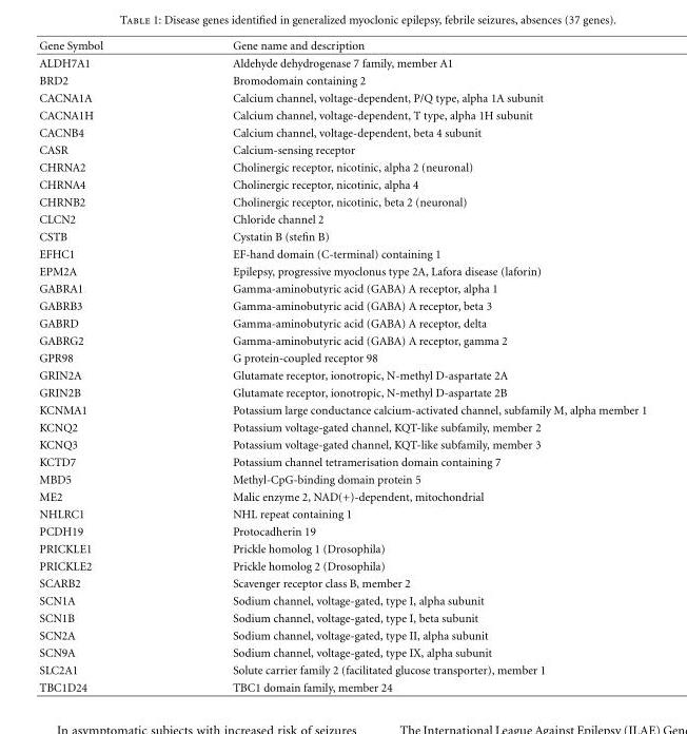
<table><thead><tr><td>Gene Symbol</td><td>Gene name and description</td></tr></thead><tbody><tr><td>ALDH7A1</td><td>Aldehyde dehydrogenase 7 family, member A1</td></tr><tr><td>BRD2</td><td>Bromodomain containing 2</td></tr><tr><td>CACNA1A</td><td>Calcium channel, voltage-dependent, P/Q type, alpha 1A subunit</td></tr><tr><td>CACNA1H</td><td>Calcium channel, voltage-dependent, T type, alpha 1H subunit</td></tr><tr><td>CACNB4</td><td>Calcium channel, voltage-dependent, beta 4 subunit</td></tr><tr><td>CASR</td><td>Calcium-sensing receptor</td></tr><tr><td>CHRNA2</td><td>Cholinergic receptor, nicotinic, alpha 2 (neuronal)</td></tr><tr><td>CHRNA4</td><td>Cholinergic receptor, nicotinic, alpha 4</td></tr><tr><td>CHRNB2</td><td>Cholinergic receptor, nicotinic, beta 2 (neuronal)</td></tr><tr><td>CLCN2</td><td>Chloride channel 2</td></tr><tr><td>CSTB</td><td>Cystatin B (stefin B)</td></tr><tr><td>EFHC1</td><td>EF-hand domain (C-terminal) containing 1</td></tr><tr><td>EPM2A</td><td>Epilepsy, progressive myoclonus type 2A, Lafora disease (laforin)</td></tr><tr><td>GABRA1</td><td>Gamma-aminobutyric acid (GABA) A receptor, alpha 1</td></tr><tr><td>GABRB3</td><td>Gamma-aminobutyric acid (GABA) A receptor, beta 3</td></tr><tr><td>GABRD</td><td>Gamma-aminobutyric acid (GABA) A receptor, delta</td></tr><tr><td>GABRG2</td><td>Gamma-aminobutyric acid (GABA) A receptor, gamma 2</td></tr><tr><td>GPR98</td><td>G protein-coupled receptor 98</td></tr><tr><td>GRIN2A</td><td>Glutamate receptor, ionotropic, N-methyl D-aspartate 2A</td></tr><tr><td>GRIN2B</td><td>Glutamate receptor, ionotropic, N-methyl D-aspartate 2B</td></tr><tr><td>KCNMA1</td><td>Potassium large conductance calcium-activated channel, subfamily M, alpha member 1</td></tr><tr><td>KCNQ2</td><td>Potassium voltage-gated channel, KQT-like subfamily, member 2</td></tr><tr><td>KCNQ3</td><td>Potassium voltage-gated channel, KQT-like subfamily, member 3</td></tr><tr><td>KCTD7</td><td>Potassium channel tetramerisation domain containing 7</td></tr><tr><td>MBD5</td><td>Methyl-CpG-binding domain protein 5</td></tr><tr><td>ME2</td><td>Malic enzyme 2, NAD(+)-dependent, mitochondrial</td></tr><tr><td>NHLRC1</td><td>NHL repeat containing 1</td></tr><tr><td>PCDH19</td><td>Protocadherin 19</td></tr><tr><td>PRICKLE1</td><td>Prickle homolog 1 (Drosophila)</td></tr><tr><td>PRICKLE2</td><td>Prickle homolog 2 (Drosophila)</td></tr><tr><td>SCARB2</td><td>Scavenger receptor class B, member 2</td></tr><tr><td>SCN1A</td><td>Sodium channel, voltage-gated, type I, alpha subunit</td></tr><tr><td>SCN1B</td><td>Sodium channel, voltage-gated, type I, beta subunit</td></tr><tr><td>SCN2A</td><td>Sodium channel, voltage-gated, type II, alpha subunit</td></tr><tr><td>SCN9A</td><td>Sodium channel, voltage-gated, type IX, alpha subunit</td></tr><tr><td>SLC2A1</td><td>Solute carrier family 2 (facilitated glucose transporter), member 1</td></tr><tr><td>TBC1D24</td><td>TBC1 domain family, member 24</td></tr></tbody></table>